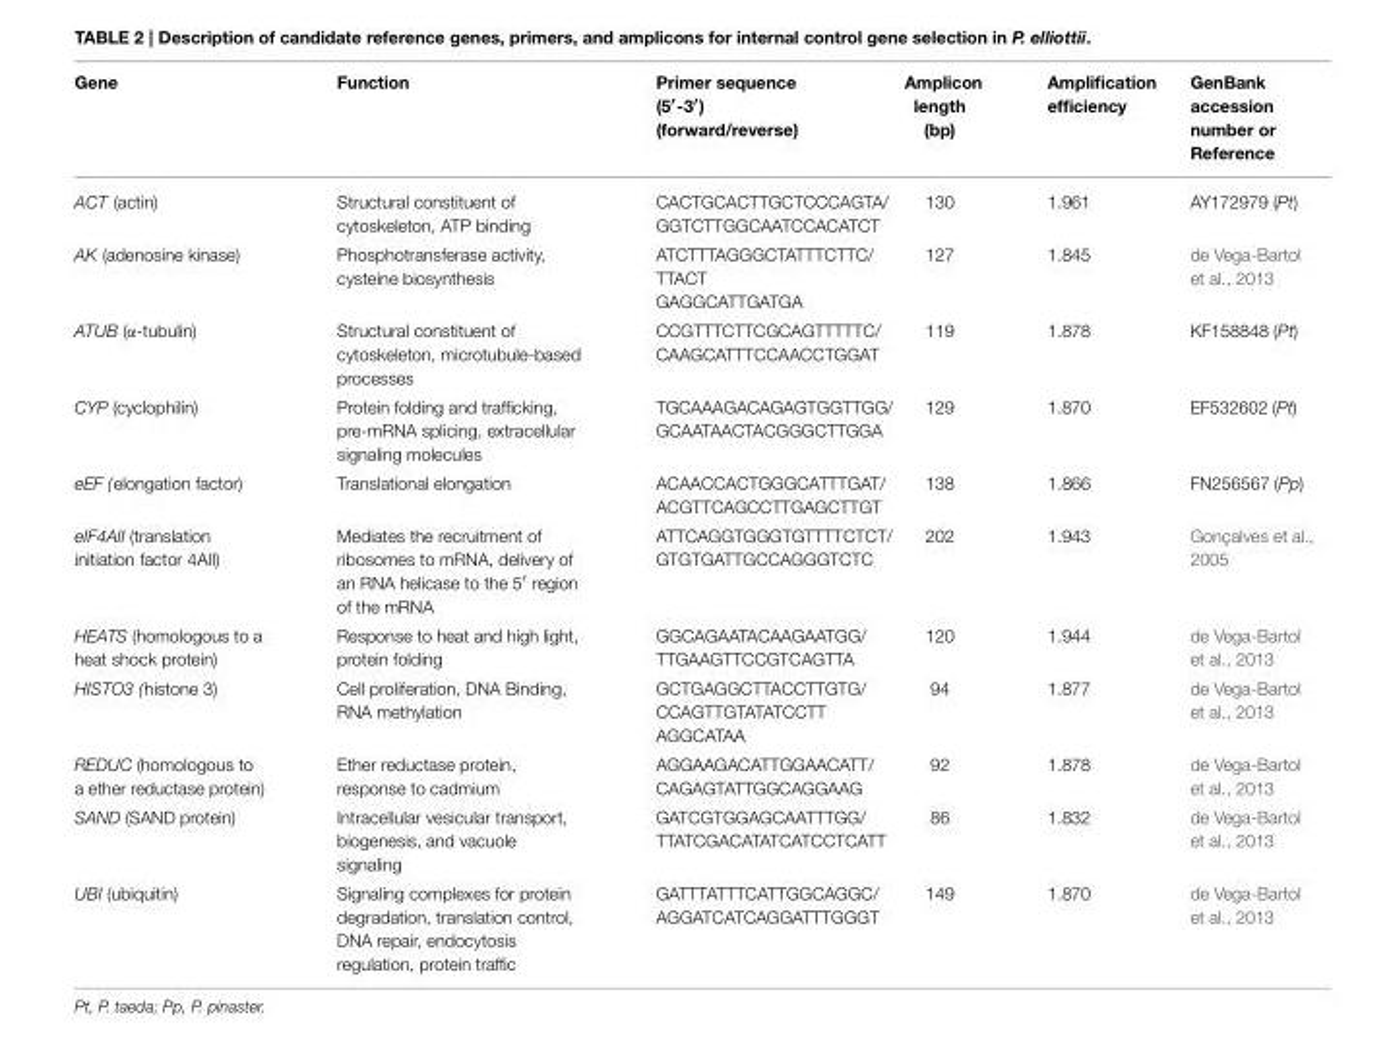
<table><thead><tr><td>Gene</td><td>Function</td><td>Primer sequence (5′-3′) (forward/reverse)</td><td>Amplicon length (bp)</td><td>Amplification efficiency</td><td>GenBank accession number or Reference</td></tr></thead><tbody><tr><td>ACT (actin)</td><td>Structural constituent of cytoskeleton, ATP binding</td><td>CACTGCACTTGCTCCCAGTA/ GGTCTTGGCAATCCACATCT</td><td>130</td><td>1.961</td><td>AY172979 (Pt)</td></tr><tr><td>AK (adenosine kinase)</td><td>Phosphotransferase activity, cysteine biosynthesis</td><td>ATCTTTAGGGCTATTTCTTC/ TTACT GAGGCATTGATGA</td><td>127</td><td>1.845</td><td>de Vega-Bartol et al., 2013</td></tr><tr><td>ATUB (α-tubulin)</td><td>Structural constituent of cytoskeleton, microtubule-based processes</td><td>CCGTTTCTTCGCAGTTTTTC/ CAAGCATTTCCAACCTGGAT</td><td>119</td><td>1.878</td><td>KF158848 (Pt)</td></tr><tr><td>CYP (cyclophilin)</td><td>Protein folding and trafficking, pre-mRNA splicing, extracellular signaling molecules</td><td>TGCAAAGACAGAGTGGTTGG/ GCAATAACTACGGGCTTGGA</td><td>129</td><td>1.870</td><td>EF532602 (Pt)</td></tr><tr><td>eEF (elongation factor)</td><td>Translational elongation</td><td>ACAACCACTGGGCATTTGAT/ ACGTTCAGCCTTGAGCTTGT</td><td>138</td><td>1.866</td><td>FN256567 (Pp)</td></tr><tr><td>eIF4AII (translation initiation factor 4AII)</td><td>Mediates the recruitment of ribosomes to mRNA, delivery of an RNA helicase to the 5′ region of the mRNA</td><td>ATTCAGGTGGGTGTTTTCTCT/ GTGTGATTGCCAGGGTCTC</td><td>202</td><td>1.943</td><td>Gonçalves et al., 2005</td></tr><tr><td>HEATS (homologous to a heat shock protein)</td><td>Response to heat and high light, protein folding</td><td>GGCAGAATACAAGAATGG/ TTGAAGTTCCGTCAGTTA</td><td>120</td><td>1.944</td><td>de Vega-Bartol et al., 2013</td></tr><tr><td>HISTO3 (histone 3)</td><td>Cell proliferation, DNA Binding, RNA methylation</td><td>GCTGAGGCTTACCTTGTG/ CCAGTTGTATATCCTT AGGCATAA</td><td>94</td><td>1.877</td><td>de Vega-Bartol et al., 2013</td></tr><tr><td>REDUC (homologous to a ether reductase protein)</td><td>Ether reductase protein, response to cadmium</td><td>AGGAAGACATTGGAACATT/ CAGAGTATTGGCAGGAAG</td><td>92</td><td>1.878</td><td>de Vega-Bartol et al., 2013</td></tr><tr><td>SAND (SAND protein)</td><td>Intracellular vesicular transport, biogenesis, and vacuole signaling</td><td>GATCGTGGAGCAATTTGG/ TTATCGACATATCATCCTCATT</td><td>86</td><td>1.832</td><td>de Vega-Bartol et al., 2013</td></tr><tr><td>UBI (ubiquitin)</td><td>Signaling complexes for protein degradation, translation control, DNA repair, endocytosis regulation, protein traffic</td><td>GATTTATTTCATTGGCAGGC/ AGGATCATCAGGATTTGGGT</td><td>149</td><td>1.870</td><td>de Vega-Bartol et al., 2013</td></tr></tbody></table>